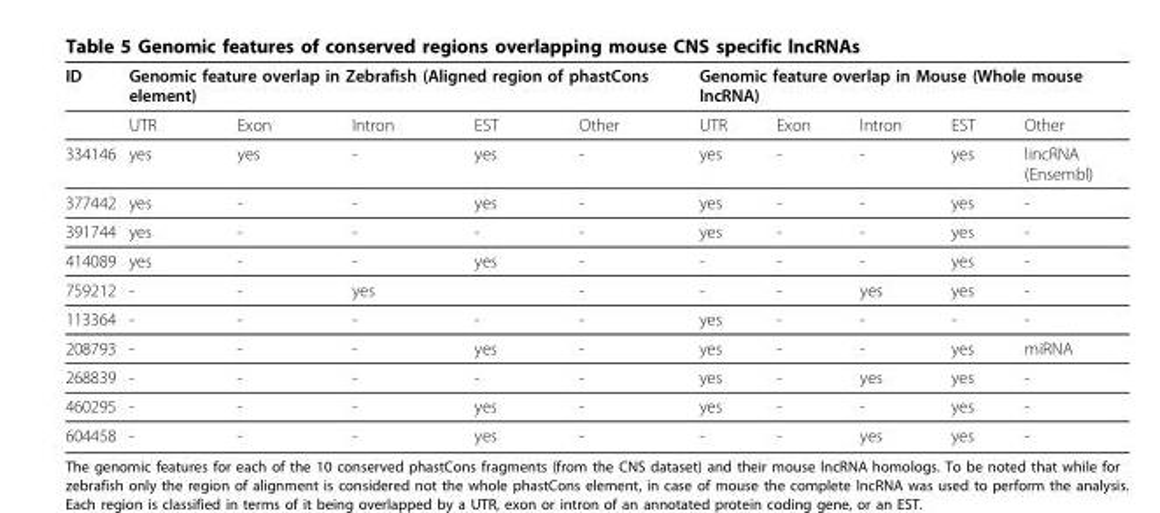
<table><thead><tr><td rowspan="2">ID</td><td colspan="5">Genomic feature overlap in Zebrafish (Aligned region of phastCons element)</td><td colspan="5">Genomic feature overlap in Mouse (Whole mouse lncRNA)</td></tr><tr><td>UTR</td><td>Exon</td><td>Intron</td><td>EST</td><td>Other</td><td>UTR</td><td>Exon</td><td>Intron</td><td>EST</td><td>Other</td></tr></thead><tbody><tr><td>334146</td><td>yes</td><td>yes</td><td>-</td><td>yes</td><td>-</td><td>yes</td><td>-</td><td>-</td><td>yes</td><td>lincRNA (Ensembl)</td></tr><tr><td>377442</td><td>yes</td><td>-</td><td>-</td><td>yes</td><td>-</td><td>yes</td><td>-</td><td>-</td><td>yes</td><td>-</td></tr><tr><td>391744</td><td>yes</td><td>-</td><td>-</td><td>-</td><td>-</td><td>yes</td><td>-</td><td>-</td><td>yes</td><td>-</td></tr><tr><td>414089</td><td>yes</td><td>-</td><td>-</td><td>yes</td><td>-</td><td>-</td><td>-</td><td>-</td><td>yes</td><td>-</td></tr><tr><td>759212</td><td>-</td><td>-</td><td>yes</td><td></td><td>-</td><td>-</td><td>-</td><td>yes</td><td>yes</td><td>-</td></tr><tr><td>113364</td><td>-</td><td>-</td><td>-</td><td>-</td><td>-</td><td>yes</td><td>-</td><td>-</td><td>-</td><td>-</td></tr><tr><td>208793</td><td>-</td><td>-</td><td>-</td><td>yes</td><td>-</td><td>yes</td><td>-</td><td>-</td><td>yes</td><td>miRNA</td></tr><tr><td>268839</td><td>-</td><td>-</td><td>-</td><td>-</td><td>-</td><td>yes</td><td>-</td><td>yes</td><td>yes</td><td>-</td></tr><tr><td>460295</td><td>-</td><td>-</td><td>-</td><td>yes</td><td>-</td><td>yes</td><td>-</td><td>-</td><td>yes</td><td>-</td></tr><tr><td>604458</td><td>-</td><td>-</td><td>-</td><td>yes</td><td>-</td><td>-</td><td>-</td><td>yes</td><td>yes</td><td>-</td></tr></tbody></table>